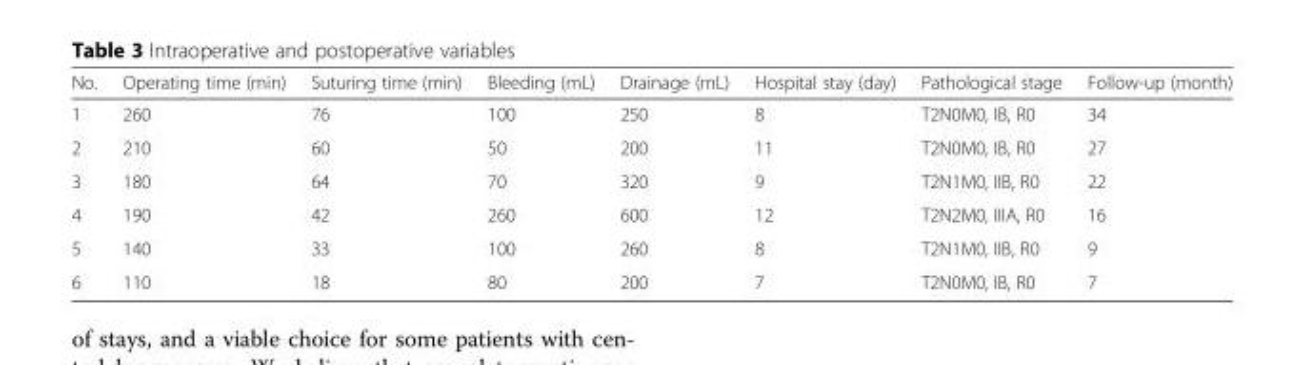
<table><thead><tr><td>No.</td><td>Operating time (min)</td><td>Suturing time (min)</td><td>Bleeding (mL)</td><td>Drainage (mL)</td><td>Hospital stay (day)</td><td>Pathological stage</td><td>Follow-up (month)</td></tr></thead><tbody><tr><td>1</td><td>260</td><td>76</td><td>100</td><td>250</td><td>8</td><td>T2N0M0, IB, R0</td><td>34</td></tr><tr><td>2</td><td>210</td><td>60</td><td>50</td><td>200</td><td>11</td><td>T2N0M0, IB, R0</td><td>27</td></tr><tr><td>3</td><td>180</td><td>64</td><td>70</td><td>320</td><td>9</td><td>T2N1M0, IIB, R0</td><td>22</td></tr><tr><td>4</td><td>190</td><td>42</td><td>260</td><td>600</td><td>12</td><td>T2N2M0, IIIA, R0</td><td>16</td></tr><tr><td>5</td><td>140</td><td>33</td><td>100</td><td>260</td><td>8</td><td>T2N1M0, IIB, R0</td><td>9</td></tr><tr><td>6</td><td>110</td><td>18</td><td>80</td><td>200</td><td>7</td><td>T2N0M0, IB, R0</td><td>7</td></tr></tbody></table>